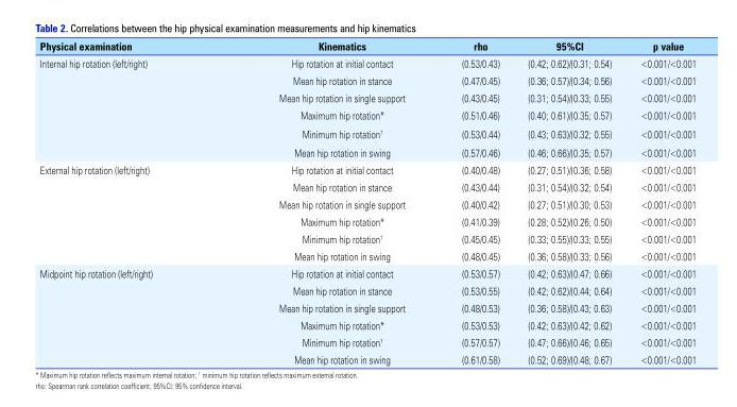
<table><thead><tr><td>Physical examination</td><td>Kinematics</td><td>rho</td><td>95%CI</td><td>p value</td></tr></thead><tbody><tr><td rowspan="6">Internal hip rotation (left/right)</td><td>Hip rotation at initial contact</td><td>(0.53/0.43)</td><td>(0.42; 0.62)/(0.31; 0.54)</td><td>&lt;0.001/&lt;0.001</td></tr><tr><td>Mean hip rotation in stance</td><td>(0.47/0.45)</td><td>(0.36; 0.57)/(0.34; 0.56)</td><td>&lt;0.001/&lt;0.001</td></tr><tr><td>Mean hip rotation in single support</td><td>(0.43/0.45)</td><td>(0.31; 0.54)/(0.33; 0.55)</td><td>&lt;0.001/&lt;0.001</td></tr><tr><td>Maximum hip rotation*</td><td>(0.51/0.46)</td><td>(0.40; 0.61)/(0.35; 0.57)</td><td>&lt;0.001/&lt;0.001</td></tr><tr><td>Minimum hip rotation†</td><td>(0.53/0.44)</td><td>(0.43; 0.63)/(0.32; 0.55)</td><td>&lt;0.001/&lt;0.001</td></tr><tr><td>Mean hip rotation in swing</td><td>(0.57/0.46)</td><td>(0.46; 0.66)/(0.35; 0.57)</td><td>&lt;0.001/&lt;0.001</td></tr><tr><td rowspan="6">External hip rotation (left/right)</td><td>Hip rotation at initial contact</td><td>(0.40/0.48)</td><td>(0.27; 0.51)/(0.36; 0.58)</td><td>&lt;0.001/&lt;0.001</td></tr><tr><td>Mean hip rotation in stance</td><td>(0.43/0.44)</td><td>(0.31; 0.54)/(0.32; 0.54)</td><td>&lt;0.001/&lt;0.001</td></tr><tr><td>Mean hip rotation in single support</td><td>(0.40/0.42)</td><td>(0.27; 0.51)/(0.30; 0.53)</td><td>&lt;0.001/&lt;0.001</td></tr><tr><td>Maximum hip rotation*</td><td>(0.41/0.39)</td><td>(0.28; 0.52)/(0.26; 0.50)</td><td>&lt;0.001/&lt;0.001</td></tr><tr><td>Minimum hip rotation†</td><td>(0.45/0.45)</td><td>(0.33; 0.55)/(0.33; 0.55)</td><td>&lt;0.001/&lt;0.001</td></tr><tr><td>Mean hip rotation in swing</td><td>(0.48/0.45)</td><td>(0.36; 0.58)/(0.33; 0.56)</td><td>&lt;0.001/&lt;0.001</td></tr><tr><td rowspan="6">Midpoint hip rotation (left/right)</td><td>Hip rotation at initial contact</td><td>(0.53/0.57)</td><td>(0.42; 0.63)/(0.47; 0.66)</td><td>&lt;0.001/&lt;0.001</td></tr><tr><td>Mean hip rotation in stance</td><td>(0.53/0.55)</td><td>(0.42; 0.62)/(0.44; 0.64)</td><td>&lt;0.001/&lt;0.001</td></tr><tr><td>Mean hip rotation in single support</td><td>(0.48/0.53)</td><td>(0.36; 0.58)/(0.43; 0.63)</td><td>&lt;0.001/&lt;0.001</td></tr><tr><td>Maximum hip rotation*</td><td>(0.53/0.53)</td><td>(0.42; 0.63)/(0.42; 0.62)</td><td>&lt;0.001/&lt;0.001</td></tr><tr><td>Minimum hip rotation†</td><td>(0.57/0.57)</td><td>(0.47; 0.66)/(0.46; 0.65)</td><td>&lt;0.001/&lt;0.001</td></tr><tr><td>Mean hip rotation in swing</td><td>(0.61/0.58)</td><td>(0.52; 0.69)/(0.48; 0.67)</td><td>&lt;0.001/&lt;0.001</td></tr></tbody></table>